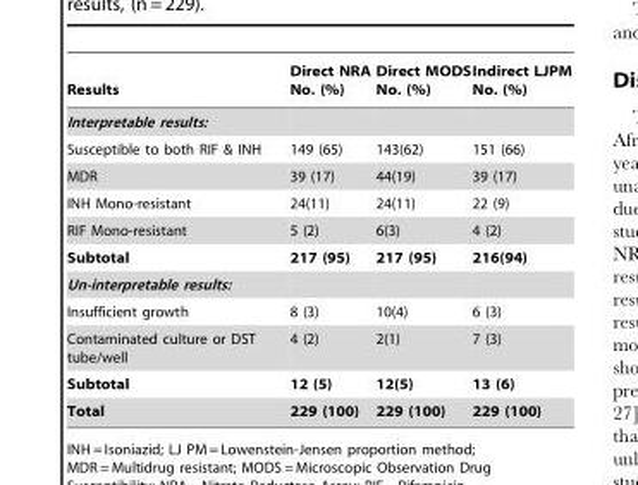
<table><thead><tr><td>Results</td><td>Direct NRA No. (%)</td><td>Direct MODS No. (%)</td><td>Indirect LJPM No. (%)</td></tr></thead><tbody><tr><td colspan="4">Interpretable results:</td></tr><tr><td>Susceptible to both RIF &amp; INH</td><td>149 (65)</td><td>143(62)</td><td>151 (66)</td></tr><tr><td>MDR</td><td>39 (17)</td><td>44(19)</td><td>39 (17)</td></tr><tr><td>INH Mono-resistant</td><td>24(11)</td><td>24(11)</td><td>22 (9)</td></tr><tr><td>RIF Mono-resistant</td><td>5 (2)</td><td>6(3)</td><td>4 (2)</td></tr><tr><td>Subtotal</td><td>217 (95)</td><td>217 (95)</td><td>216(94)</td></tr><tr><td colspan="4">Un-interpretable results:</td></tr><tr><td>Insufficient growth</td><td>8 (3)</td><td>10(4)</td><td>6 (3)</td></tr><tr><td>Contaminated culture or DST tube/well</td><td>4 (2)</td><td>2(1)</td><td>7 (3)</td></tr><tr><td>Subtotal</td><td>12 (5)</td><td>12(5)</td><td>13 (6)</td></tr><tr><td>Total</td><td>229 (100)</td><td>229 (100)</td><td>229 (100)</td></tr></tbody></table>